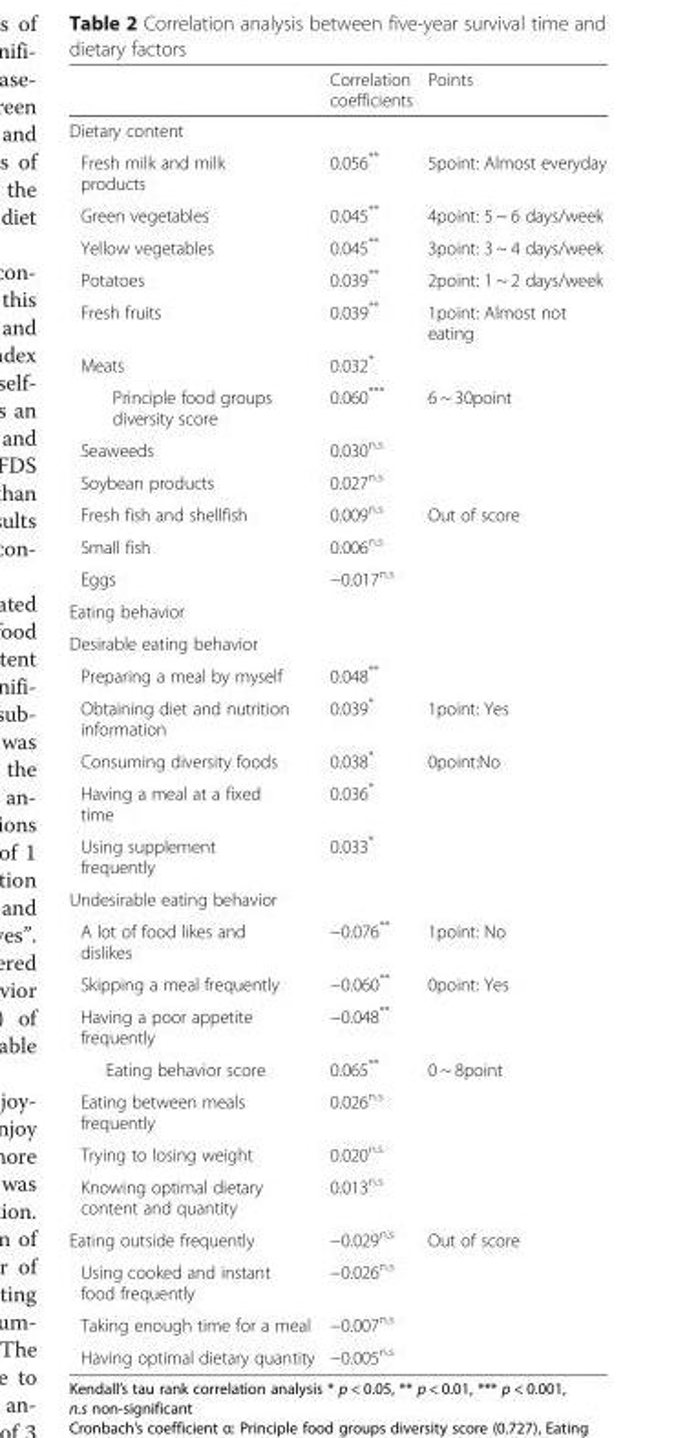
<table><thead><tr><td></td><td>Correlation coefficients</td><td>Points</td></tr></thead><tbody><tr><td colspan="3">Dietary content</td></tr><tr><td>Fresh milk and milk products</td><td>0.056**</td><td>5point: Almost everyday</td></tr><tr><td>Green vegetables</td><td>0.045**</td><td>4point: 5 ~ 6 days/week</td></tr><tr><td>Yellow vegetables</td><td>0.045**</td><td>3point: 3 ~ 4 days/week</td></tr><tr><td>Potatoes</td><td>0.039**</td><td>2point: 1 ~ 2 days/week</td></tr><tr><td>Fresh fruits</td><td>0.039**</td><td>1point: Almost not eating</td></tr><tr><td>Meats</td><td>0.032*</td><td></td></tr><tr><td>Principle food groups diversity score</td><td>0.060***</td><td>6 ~ 30point</td></tr><tr><td>Seaweeds</td><td>0.030<sup>n.s</sup></td><td></td></tr><tr><td>Soybean products</td><td>0.027<sup>n.s</sup></td><td></td></tr><tr><td>Fresh fish and shellfish</td><td>0.009<sup>n.s</sup></td><td>Out of score</td></tr><tr><td>Small fish</td><td>0.006<sup>n.s</sup></td><td></td></tr><tr><td>Eggs</td><td>−0.017<sup>n.s</sup></td><td></td></tr><tr><td colspan="3">Eating behavior</td></tr><tr><td colspan="3">Desirable eating behavior</td></tr><tr><td>Preparing a meal by myself</td><td>0.048**</td><td></td></tr><tr><td>Obtaining diet and nutrition information</td><td>0.039*</td><td>1point: Yes</td></tr><tr><td>Consuming diversity foods</td><td>0.038*</td><td>0point:No</td></tr><tr><td>Having a meal at a fixed time</td><td>0.036*</td><td></td></tr><tr><td>Using supplement frequently</td><td>0.033*</td><td></td></tr><tr><td colspan="3">Undesirable eating behavior</td></tr><tr><td>A lot of food likes and dislikes</td><td>−0.076**</td><td>1point: No</td></tr><tr><td>Skipping a meal frequently</td><td>−0.060**</td><td>0point: Yes</td></tr><tr><td>Having a poor appetite frequently</td><td>−0.048**</td><td></td></tr><tr><td>Eating behavior score</td><td>0.065**</td><td>0 ~ 8point</td></tr><tr><td>Eating between meals frequently</td><td>0.026<sup>n.s</sup></td><td></td></tr><tr><td>Trying to losing weight</td><td>0.020<sup>n.s</sup></td><td></td></tr><tr><td>Knowing optimal dietary content and quantity</td><td>0.013<sup>n.s</sup></td><td></td></tr><tr><td>Eating outside frequently</td><td>−0.029<sup>n.s</sup></td><td>Out of score</td></tr><tr><td>Using cooked and instant food frequently</td><td>−0.026<sup>n.s</sup></td><td></td></tr><tr><td>Taking enough time for a meal</td><td>−0.007<sup>n.s</sup></td><td></td></tr><tr><td>Having optimal dietary quantity</td><td>−0.005<sup>n.s</sup></td><td></td></tr></tbody></table>